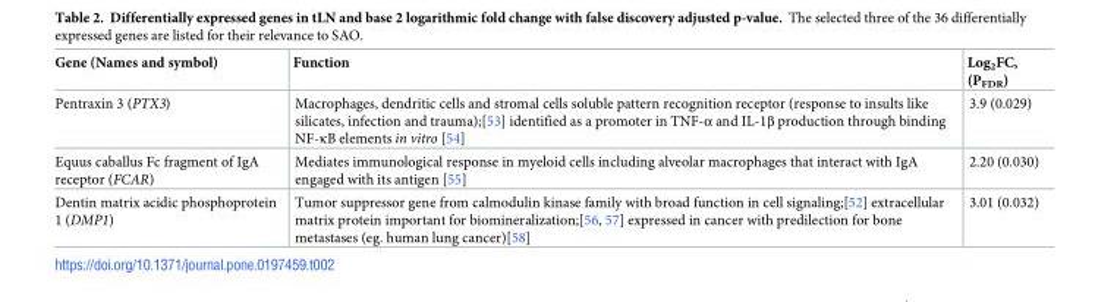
<table><thead><tr><td>Gene (Names and symbol)</td><td>Function</td><td>Log<sub>2</sub>FC, (P<sub>FDR</sub>)</td></tr></thead><tbody><tr><td>Pentraxin 3 (PTX3)</td><td>Macrophages, dendritic cells and stromal cells soluble pattern recognition receptor (response to insults like silicates, infection and trauma);[53] identified as a promoter in TNF-α and IL-1β production through binding NF-κB elements in vitro [54]</td><td>3.9 (0.029)</td></tr><tr><td>Equus caballus Fc fragment of IgA receptor (FCAR)</td><td>Mediates immunological response in myeloid cells including alveolar macrophages that interact with IgA engaged with its antigen [55]</td><td>2.20 (0.030)</td></tr><tr><td>Dentin matrix acidic phosphoprotein 1 (DMP1)</td><td>Tumor suppressor gene from calmodulin kinase family with broad function in cell signaling;[52] extracellular matrix protein important for biomineralization;[56, 57] expressed in cancer with predilection for bone metastases (eg. human lung cancer)[58]</td><td>3.01 (0.032)</td></tr></tbody></table>